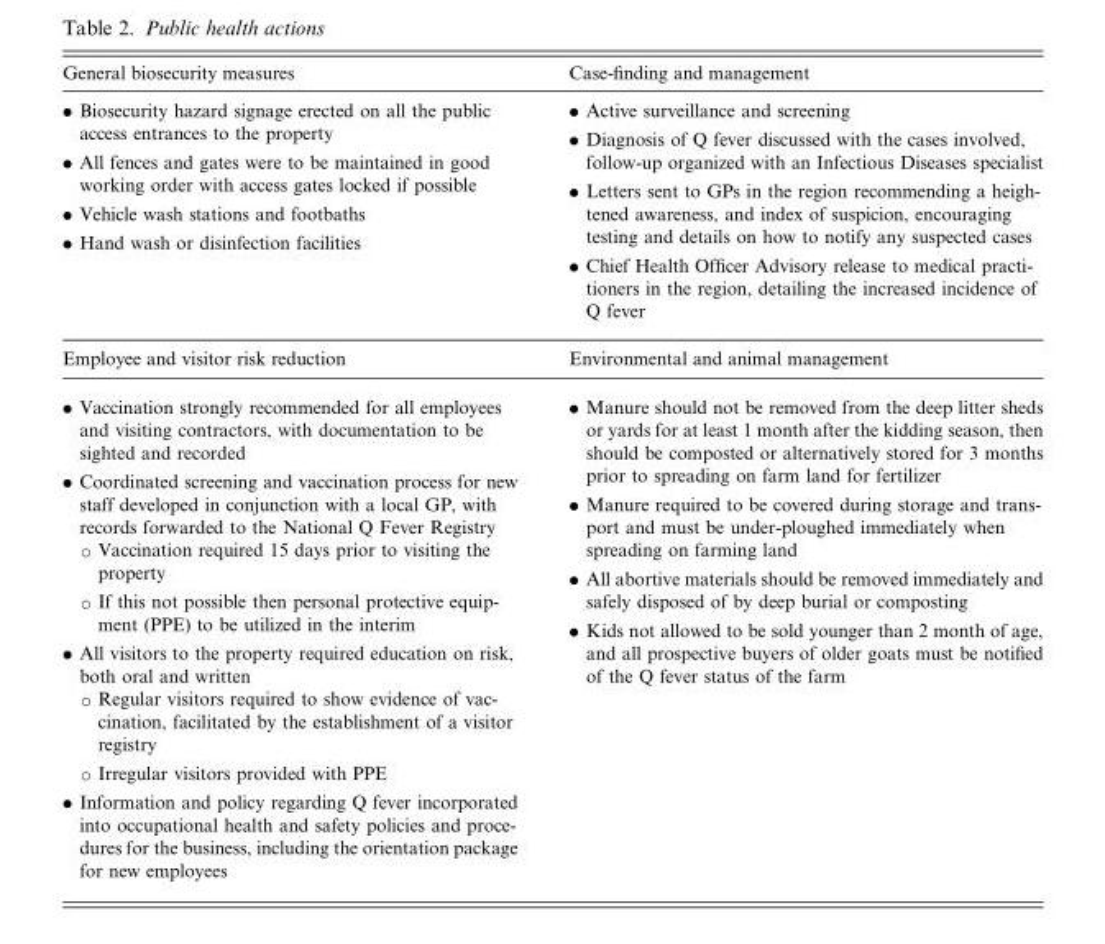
<table><thead><tr><td>General biosecurity measures</td><td>Case-finding and management</td></tr></thead><tbody><tr><td>. Biosecurity hazard signage erected on all the public access entrances to the property . All fences and gates were to be maintained in good working order with access gates locked if possible . Vehicle wash stations and footbaths . Hand wash or disinfection facilities</td><td>. Active surveillance and screening . Diagnosis of Q fever discussed with the cases involved, follow-up organized with an Infectious Diseases specialist . Letters sent to GPs in the region recommending a heigh- tened awareness, and index of suspicion, encouraging testing and details on how to notify any suspected cases . Chief Health Officer Advisory release to medical practi- tioners in the region, detailing the increased incidence of Q fever</td></tr><tr><td>Employee and visitor risk reduction</td><td>Environmental and animal management</td></tr><tr><td>. Vaccination strongly recommended for all employees and visiting contractors, with documentation to be sighted and recorded . Coordinated screening and vaccination process for new staff developed in conjunction with a local GP, with records forwarded to the National Q Fever Registry ○ Vaccination required 15 days prior to visiting the property ○ If this not possible then personal protective equip- ment (PPE) to be utilized in the interim . All visitors to the property required education on risk, both oral and written ○ Regular visitors required to show evidence of vac- cination, facilitated by the establishment of a visitor registry ○ Irregular visitors provided with PPE . Information and policy regarding Q fever incorporated into occupational health and safety policies and proce- dures for the business, including the orientation package for new employees</td><td>. Manure should not be removed from the deep litter sheds or yards for at least 1 month after the kidding season, then should be composted or alternatively stored for 3 months prior to spreading on farm land for fertilizer . Manure required to be covered during storage and trans- port and must be under-ploughed immediately when spreading on farming land . All abortive materials should be removed immediately and safely disposed of by deep burial or composting . Kids not allowed to be sold younger than 2 month of age, and all prospective buyers of older goats must be notified of the Q fever status of the farm</td></tr></tbody></table>